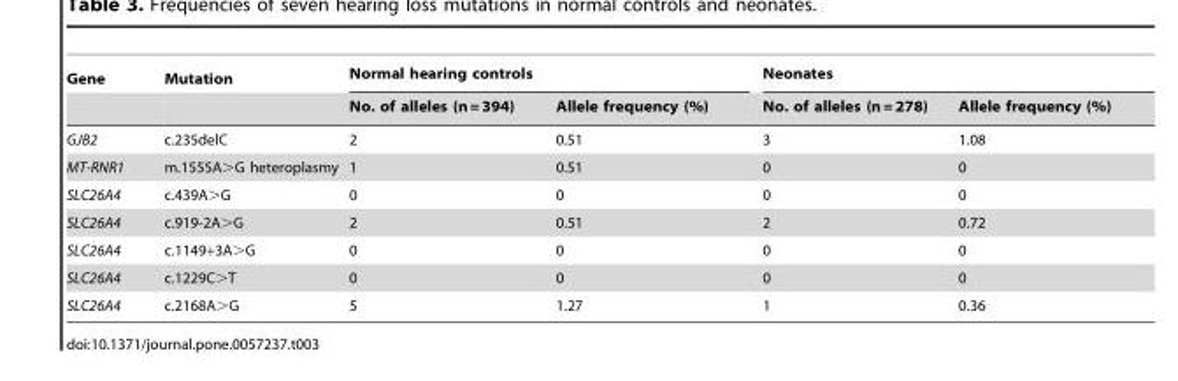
<table><thead><tr><td rowspan="2">Gene</td><td rowspan="2">Mutation</td><td colspan="2">Normal hearing controls</td><td colspan="2">Neonates</td></tr><tr><td>No. of alleles (n = 394)</td><td>Allele frequency (%)</td><td>No. of alleles (n = 278)</td><td>Allele frequency (%)</td></tr></thead><tbody><tr><td>GJB2</td><td>c.235delC</td><td>2</td><td>0.51</td><td>3</td><td>1.08</td></tr><tr><td>MT-RNR1</td><td>m.1555A&gt;G heteroplasmy</td><td>1</td><td>0.51</td><td>0</td><td>0</td></tr><tr><td>SLC26A4</td><td>c.439A&gt;G</td><td>0</td><td>0</td><td>0</td><td>0</td></tr><tr><td>SLC26A4</td><td>c.919-2A&gt;G</td><td>2</td><td>0.51</td><td>2</td><td>0.72</td></tr><tr><td>SLC26A4</td><td>c.1149+3A&gt;G</td><td>0</td><td>0</td><td>0</td><td>0</td></tr><tr><td>SLC26A4</td><td>c.1229C&gt;T</td><td>0</td><td>0</td><td>0</td><td>0</td></tr><tr><td>SLC26A4</td><td>c.2168A&gt;G</td><td>5</td><td>1.27</td><td>1</td><td>0.36</td></tr></tbody></table>